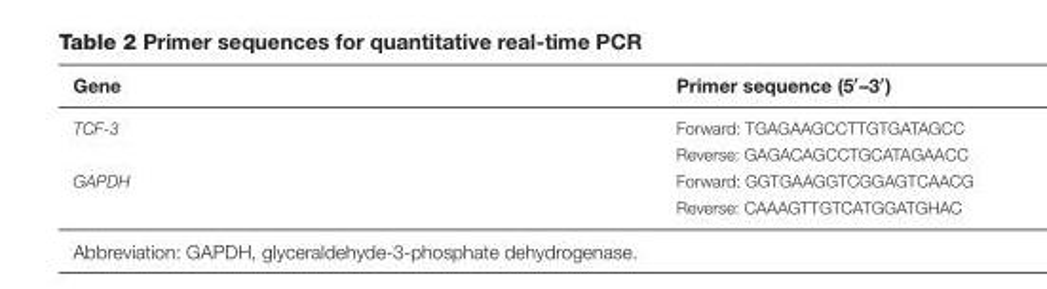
<table><thead><tr><td>Gene</td><td>Primer sequence (5′–3′)</td></tr></thead><tbody><tr><td rowspan="2">TCF-3</td><td>Forward: TGAGAAGCCTTGTGATAGCC</td></tr><tr><td>Reverse: GAGACAGCCTGCATAGAACC</td></tr><tr><td rowspan="2">GAPDH</td><td>Forward: GGTGAAGGTCGGAGTCAACG</td></tr><tr><td>Reverse: CAAAGTTGTCATGGATGHAC</td></tr></tbody></table>